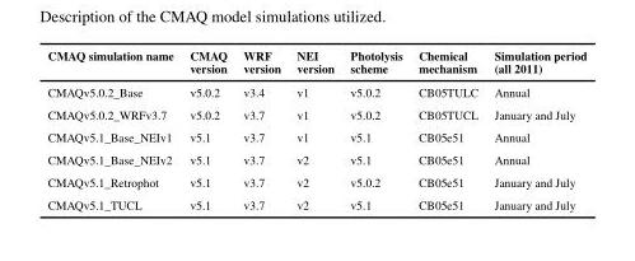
<table><thead><tr><td>CMAQ simulation name</td><td>CMAQ version</td><td>WRF version</td><td>NEI version</td><td>Photolysis scheme</td><td>Chemical mechanism</td><td>Simulation period (all 2011)</td></tr></thead><tbody><tr><td>CMAQv5.0.2_Base</td><td>v5.0.2</td><td>v3.4</td><td>v1</td><td>v5.0.2</td><td>CB05TULC</td><td>Annual</td></tr><tr><td>CMAQv5.0.2_WRFv3.7</td><td>v5.0.2</td><td>v3.7</td><td>v1</td><td>v5.0.2</td><td>CB05TUCL</td><td>January and July</td></tr><tr><td>CMAQv5.1_Base_NEIv1</td><td>v5.1</td><td>v3.7</td><td>v1</td><td>v5.1</td><td>CB05e51</td><td>Annual</td></tr><tr><td>CMAQv5.1_Base_NEIv2</td><td>v5.1</td><td>v3.7</td><td>v2</td><td>v5.1</td><td>CB05e51</td><td>Annual</td></tr><tr><td>CMAQv5.1_Retrophot</td><td>v5.1</td><td>v3.7</td><td>v2</td><td>v5.0.2</td><td>CB05e51</td><td>January and July</td></tr><tr><td>CMAQv5.1_TUCL</td><td>v5.1</td><td>v3.7</td><td>v2</td><td>v5.1</td><td>CB05e51</td><td>January and July</td></tr></tbody></table>